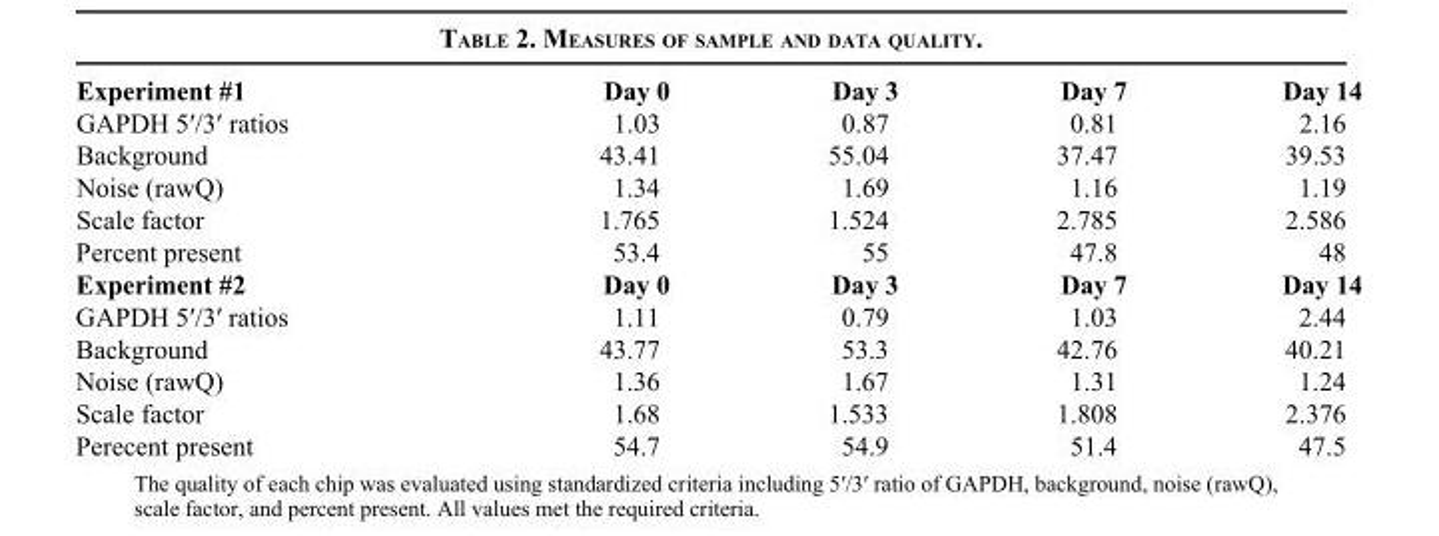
<table><thead><tr><td>Experiment #1</td><td>Day 0</td><td>Day 3</td><td>Day 7</td><td>Day 14</td></tr></thead><tbody><tr><td>GAPDH 5′/3′ ratios</td><td>1.03</td><td>0.87</td><td>0.81</td><td>2.16</td></tr><tr><td>Background</td><td>43.41</td><td>55.04</td><td>37.47</td><td>39.53</td></tr><tr><td>Noise (rawQ)</td><td>1.34</td><td>1.69</td><td>1.16</td><td>1.19</td></tr><tr><td>Scale factor</td><td>1.765</td><td>1.524</td><td>2.785</td><td>2.586</td></tr><tr><td>Percent present</td><td>53.4</td><td>55</td><td>47.8</td><td>48</td></tr><tr><td>Experiment #2</td><td>Day 0</td><td>Day 3</td><td>Day 7</td><td>Day 14</td></tr><tr><td>GAPDH 5′/3′ ratios</td><td>1.11</td><td>0.79</td><td>1.03</td><td>2.44</td></tr><tr><td>Background</td><td>43.77</td><td>53.3</td><td>42.76</td><td>40.21</td></tr><tr><td>Noise (rawQ)</td><td>1.36</td><td>1.67</td><td>1.31</td><td>1.24</td></tr><tr><td>Scale factor</td><td>1.68</td><td>1.533</td><td>1.808</td><td>2.376</td></tr><tr><td>Perecent present</td><td>54.7</td><td>54.9</td><td>51.4</td><td>47.5</td></tr></tbody></table>